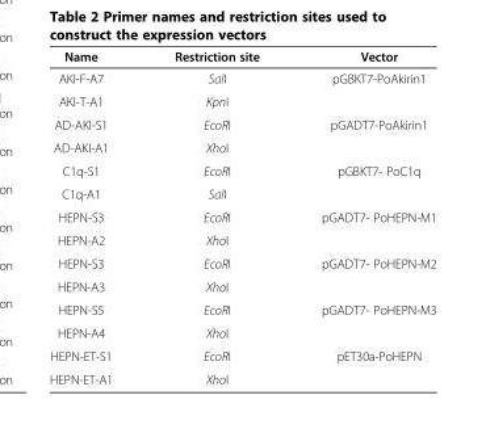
<table><thead><tr><td>Name</td><td>Restriction site</td><td>Vector</td></tr></thead><tbody><tr><td>AKI-F-A7</td><td>SalI</td><td rowspan="2">pGBKT7-PoAkirin1</td></tr><tr><td>AKI-T-A1</td><td>KpnI</td></tr><tr><td>AD-AKI-S1</td><td>EcoRI</td><td rowspan="2">pGADT7-PoAkirin1</td></tr><tr><td>AD-AKI-A1</td><td>XhoI</td></tr><tr><td>C1q-S1</td><td>EcoRI</td><td rowspan="2">pGBKT7- PoC1q</td></tr><tr><td>C1q-A1</td><td>SalI</td></tr><tr><td>HEPN-S3</td><td>EcoRI</td><td rowspan="2">pGADT7- PoHEPN-M1</td></tr><tr><td>HEPN-A2</td><td>XhoI</td></tr><tr><td>HEPN-S3</td><td>EcoRI</td><td rowspan="2">pGADT7- PoHEPN-M2</td></tr><tr><td>HEPN-A3</td><td>XhoI</td></tr><tr><td>HEPN-S5</td><td>EcoRI</td><td rowspan="2">pGADT7- PoHEPN-M3</td></tr><tr><td>HEPN-A4</td><td>XhoI</td></tr><tr><td>HEPN-ET-S1</td><td>EcoRI</td><td>pET30a-PoHEPN</td></tr><tr><td>HEPN-ET-A1</td><td>XhoI</td><td></td></tr></tbody></table>